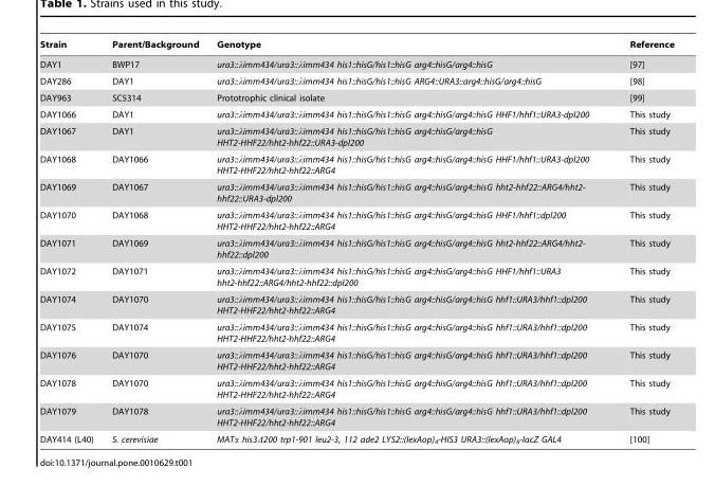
<table><thead><tr><td>Strain</td><td>Parent/Background</td><td>Genotype</td><td>Reference</td></tr></thead><tbody><tr><td>DAY1</td><td>BWP17</td><td>ura3::λimm434/ura3::λimm434 his1::hisG/his1::hisG arg4::hisG/arg4::hisG</td><td>[97]</td></tr><tr><td>DAY286</td><td>DAY1</td><td>ura3::λimm434/ura3::λimm434 his1::hisG/his1::hisG ARG4::URA3::arg4::hisG/arg4::hisG</td><td>[98]</td></tr><tr><td>DAY963</td><td>SC5314</td><td>Prototrophic clinical isolate</td><td>[99]</td></tr><tr><td>DAY1066</td><td>DAY1</td><td>ura3::λimm434/ura3::λimm434 his1::hisG/his1::hisG arg4::hisG/arg4::hisG HHF1/hhf1::URA3-dpl200</td><td>This study</td></tr><tr><td>DAY1067</td><td>DAY1</td><td>ura3::λimm434/ura3::λimm434 his1::hisG/his1::hisG arg4::hisG/arg4::hisG HHT2-HHF22/hht2-hhf22::URA3-dpl200</td><td>This study</td></tr><tr><td>DAY1068</td><td>DAY1066</td><td>ura3::λimm434/ura3::λimm434 his1::hisG/his1::hisG arg4::hisG/arg4::hisG HHF1/hhf1::URA3-dpl200 HHT2-HHF22/hht2-hhf22::ARG4</td><td>This study</td></tr><tr><td>DAY1069</td><td>DAY1067</td><td>ura3::λimm434/ura3::λimm434 his1::hisG/his1::hisG arg4::hisG/arg4::hisG hht2-hhf22::ARG4/hht2- hhf22::URA3-dpl200</td><td>This study</td></tr><tr><td>DAY1070</td><td>DAY1068</td><td>ura3::λimm434/ura3::λimm434 his1::hisG/his1::hisG arg4::hisG/arg4::hisG HHF1/hhf1::dpl200 HHT2-HHF22/hht2-hhf22::ARG4</td><td>This study</td></tr><tr><td>DAY1071</td><td>DAY1069</td><td>ura3::λimm434/ura3::λimm434 his1::hisG/his1::hisG arg4::hisG/arg4::hisG hht2-hhf22::ARG4/hht2- hhf22::dpl200</td><td>This study</td></tr><tr><td>DAY1072</td><td>DAY1071</td><td>ura3::λimm434/ura3::λimm434 his1::hisG/his1::hisG arg4::hisG/arg4::hisG HHF1/hhf1::URA3 hht2-hhf22::ARG4/hht2-hhf22::dpl200</td><td>This study</td></tr><tr><td>DAY1074</td><td>DAY1070</td><td>ura3::λimm434/ura3::λimm434 his1::hisG/his1::hisG arg4::hisG/arg4::hisG hhf1::URA3/hhf1::dpl200 HHT2-HHF22/hht2-hhf22::ARG4</td><td>This study</td></tr><tr><td>DAY1075</td><td>DAY1074</td><td>ura3::λimm434/ura3::λimm434 his1::hisG/his1::hisG arg4::hisG/arg4::hisG hhf1::URA3/hhf1::dpl200 HHT2-HHF22/hht2-hhf22::ARG4</td><td>This study</td></tr><tr><td>DAY1076</td><td>DAY1070</td><td>ura3::λimm434/ura3::λimm434 his1::hisG/his1::hisG arg4::hisG/arg4::hisG hhf1::URA3/hhf1::dpl200 HHT2-HHF22/hht2-hhf22::ARG4</td><td>This study</td></tr><tr><td>DAY1078</td><td>DAY1070</td><td>ura3::λimm434/ura3::λimm434 his1::hisG/his1::hisG arg4::hisG/arg4::hisG hhf1::URA3/hhf1::dpl200 HHT2-HHF22/hht2-hhf22::ARG4</td><td>This study</td></tr><tr><td>DAY1079</td><td>DAY1078</td><td>ura3::λimm434/ura3::λimm434 his1::hisG/his1::hisG arg4::hisG/arg4::hisG hhf1::URA3/hhf1::dpl200 HHT2-HHF22/hht2-hhf22::ARG4</td><td>This study</td></tr><tr><td>DAY414 (L40)</td><td>S. cerevisiae</td><td>MATα his3Δ200 trp1-901 leu2-3, 112 ade2 LYS2::(lexAop)<sub>4</sub>-HIS3 URA3::(lexAop)<sub>8</sub>-lacZ GAL4</td><td>[100]</td></tr></tbody></table>